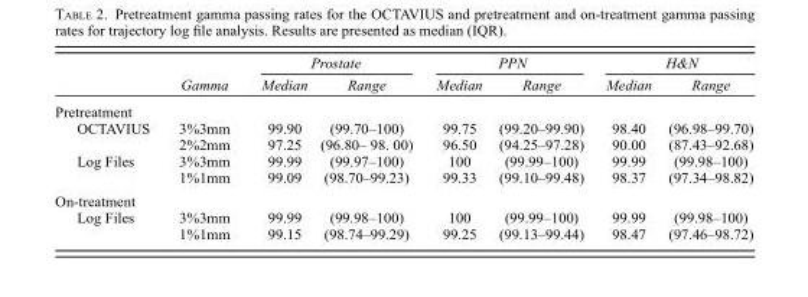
<table><thead><tr><td rowspan="2"></td><td rowspan="2">Gamma</td><td colspan="2">Prostate</td><td colspan="2">PPN</td><td colspan="2">H&amp;N</td></tr><tr><td>Median</td><td>Range</td><td>Median</td><td>Range</td><td>Median</td><td>Range</td></tr></thead><tbody><tr><td colspan="8">Pretreatment</td></tr><tr><td rowspan="2">OCTAVIUS</td><td>3%3mm</td><td>99.90</td><td>(99.70–100)</td><td>99.75</td><td>(99.20–99.90)</td><td>98.40</td><td>(96.98–99.70)</td></tr><tr><td>2%2mm</td><td>97.25</td><td>(96.80– 98. 00)</td><td>96.50</td><td>(94.25–97.28)</td><td>90.00</td><td>(87.43–92.68)</td></tr><tr><td rowspan="2">Log Files</td><td>3%3mm</td><td>99.99</td><td>(99.97–100)</td><td>100</td><td>(99.99–100)</td><td>99.99</td><td>(99.98–100)</td></tr><tr><td>1%1mm</td><td>99.09</td><td>(98.70–99.23)</td><td>99.33</td><td>(99.10–99.48)</td><td>98.37</td><td>(97.34–98.82)</td></tr><tr><td colspan="8">On-treatment</td></tr><tr><td rowspan="2">Log Files</td><td>3%3mm</td><td>99.99</td><td>(99.98–100)</td><td>100</td><td>(99.99–100)</td><td>99.99</td><td>(99.98–100)</td></tr><tr><td>1%1mm</td><td>99.15</td><td>(98.74–99.29)</td><td>99.25</td><td>(99.13–99.44)</td><td>98.47</td><td>(97.46–98.72)</td></tr></tbody></table>